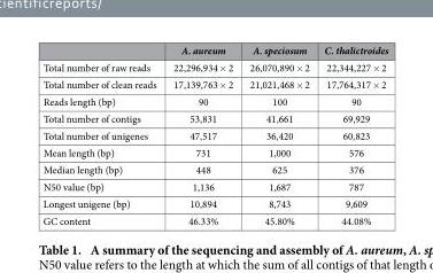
<table><thead><tr><td></td><td>A. aureum</td><td>A. speciosum</td><td>C. thalictroides</td></tr></thead><tbody><tr><td>Total number of raw reads</td><td>22,296,934 × 2</td><td>26,070,890 × 2</td><td>22,344,227 × 2</td></tr><tr><td>Total number of clean reads</td><td>17,139,763 × 2</td><td>21,021,468 × 2</td><td>17,764,317 × 2</td></tr><tr><td>Reads length (bp)</td><td>90</td><td>100</td><td>90</td></tr><tr><td>Total number of contigs</td><td>53,831</td><td>41,661</td><td>69,929</td></tr><tr><td>Total number of unigenes</td><td>47,517</td><td>36,420</td><td>60,823</td></tr><tr><td>Mean length (bp)</td><td>731</td><td>1,000</td><td>576</td></tr><tr><td>Median length (bp)</td><td>448</td><td>625</td><td>376</td></tr><tr><td>N50 value (bp)</td><td>1,136</td><td>1,687</td><td>787</td></tr><tr><td>Longest unigene (bp)</td><td>10,894</td><td>8,743</td><td>9,609</td></tr><tr><td>GC content</td><td>46.33%</td><td>45.80%</td><td>44.08%</td></tr></tbody></table>